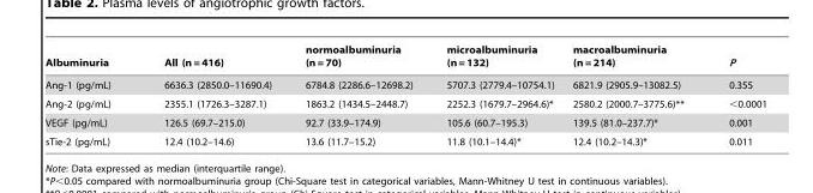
<table><thead><tr><td>Albuminuria</td><td>All (n = 416)</td><td>normoalbuminuria (n = 70)</td><td>microalbuminuria (n = 132)</td><td>macroalbuminuria (n = 214)</td><td>P</td></tr></thead><tbody><tr><td>Ang-1 (pg/mL)</td><td>6636.3 (2850.0–11690.4)</td><td>6784.8 (2286.6–12698.2)</td><td>5707.3 (2779.4–10754.1)</td><td>6821.9 (2905.9–13082.5)</td><td>0.355</td></tr><tr><td>Ang-2 (pg/mL)</td><td>2355.1 (1726.3–3287.1)</td><td>1863.2 (1434.5–2448.7)</td><td>2252.3 (1679.7–2964.6)*</td><td>2580.2 (2000.7–3775.6)**</td><td>&lt;0.0001</td></tr><tr><td>VEGF (pg/mL)</td><td>126.5 (69.7–215.0)</td><td>92.7 (33.9–174.9)</td><td>105.6 (60.7–195.3)</td><td>139.5 (81.0–237.7)*</td><td>0.001</td></tr><tr><td>sTie-2 (pg/mL)</td><td>12.4 (10.2–14.6)</td><td>13.6 (11.7–15.2)</td><td>11.8 (10.1–14.4)*</td><td>12.4 (10.2–14.3)*</td><td>0.011</td></tr></tbody></table>